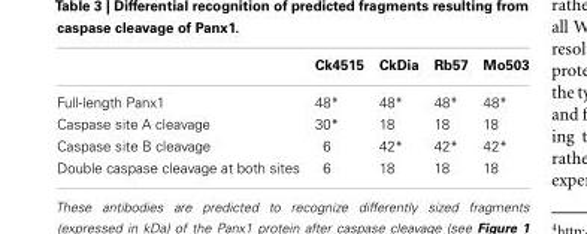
<table><thead><tr><td></td><td>Ck4515</td><td>CkDia</td><td>Rb57</td><td>Mo503</td></tr></thead><tbody><tr><td>Full-length Panx1</td><td>48*</td><td>48*</td><td>48*</td><td>48*</td></tr><tr><td>Caspase site A cleavage</td><td>30*</td><td>18</td><td>18</td><td>18</td></tr><tr><td>Caspase site B cleavage</td><td>6</td><td>42*</td><td>42*</td><td>42*</td></tr><tr><td>Double caspase cleavage at both sites</td><td>6</td><td>18</td><td>18</td><td>18</td></tr></tbody></table>